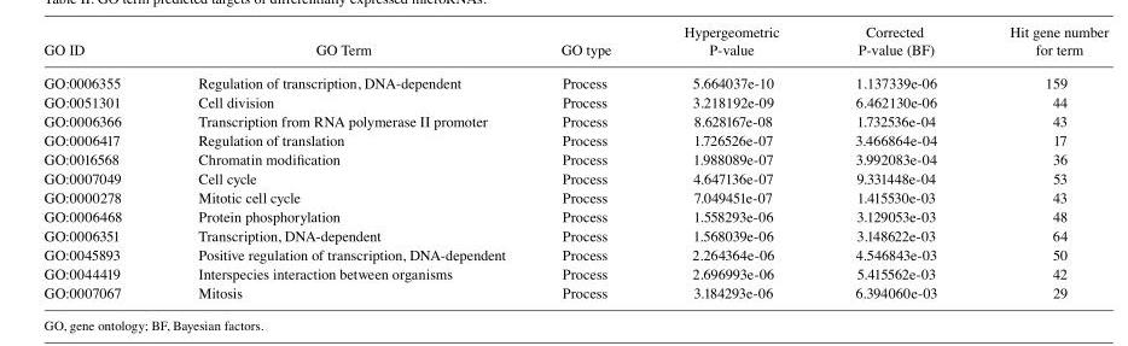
<table><thead><tr><td>GO ID</td><td>GO Term</td><td>GO type</td><td>P-value</td><td>P-value (BF)</td><td>for term</td></tr></thead><tbody><tr><td>GO:0006355</td><td>Regulation of transcription, DNA-dependent</td><td>Process</td><td>5.664037e-10</td><td>1.137339e-06</td><td>159</td></tr><tr><td>GO:0051301</td><td>Cell division</td><td>Process</td><td>3.218192e-09</td><td>6.462130e-06</td><td>44</td></tr><tr><td>GO:0006366</td><td>Transcription from RNA polymerase II promoter</td><td>Process</td><td>8.628167e-08</td><td>1.732536e-04</td><td>43</td></tr><tr><td>GO:0006417</td><td>Regulation of translation</td><td>Process</td><td>1.726526e-07</td><td>3.466864e-04</td><td>17</td></tr><tr><td>GO:0016568</td><td>Chromatin modification</td><td>Process</td><td>1.988089e‑07</td><td>3.992083e‑04</td><td>36</td></tr><tr><td>GO:0007049</td><td>Cell cycle</td><td>Process</td><td>4.647136e-07</td><td>9.331448e-04</td><td>53</td></tr><tr><td>GO:0000278</td><td>Mitotic cell cycle</td><td>Process</td><td>7.049451e-07</td><td>1.415530e-03</td><td>43</td></tr><tr><td>GO:0006468</td><td>Protein phosphorylation</td><td>Process</td><td>1.558293e-06</td><td>3.129053e-03</td><td>48</td></tr><tr><td>GO:0006351</td><td>Transcription, DNA-dependent</td><td>Process</td><td>1.568039e-06</td><td>3.148622e-03</td><td>64</td></tr><tr><td>GO:0045893</td><td>Positive regulation of transcription, DNA-dependent</td><td>Process</td><td>2.264364e-06</td><td>4.546843e-03</td><td>50</td></tr><tr><td>GO:0044419</td><td>Interspecies interaction between organisms</td><td>Process</td><td>2.696993e-06</td><td>5.415562e-03</td><td>42</td></tr><tr><td>GO:0007067</td><td>Mitosis</td><td>Process</td><td>3.184293e-06</td><td>6.394060e-03</td><td>29</td></tr></tbody></table>